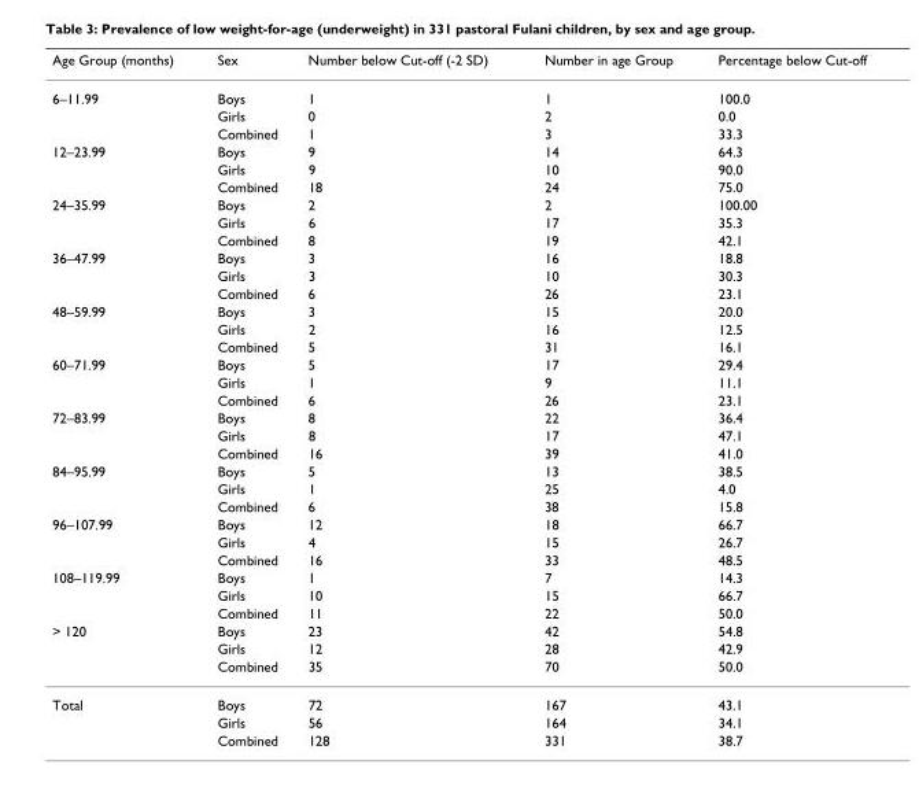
<table><thead><tr><td>Age Group (months)</td><td>Sex</td><td>Number below Cut-off (-2 SD)</td><td>Number in age Group</td><td>Percentage below Cut-off</td></tr></thead><tbody><tr><td rowspan="3">6–11.99</td><td>Boys</td><td>1</td><td>1</td><td>100.0</td></tr><tr><td>Girls</td><td>0</td><td>2</td><td>0.0</td></tr><tr><td>Combined</td><td>1</td><td>3</td><td>33.3</td></tr><tr><td rowspan="3">12–23.99</td><td>Boys</td><td>9</td><td>14</td><td>64.3</td></tr><tr><td>Girls</td><td>9</td><td>10</td><td>90.0</td></tr><tr><td>Combined</td><td>18</td><td>24</td><td>75.0</td></tr><tr><td rowspan="3">24–35.99</td><td>Boys</td><td>2</td><td>2</td><td>100.00</td></tr><tr><td>Girls</td><td>6</td><td>17</td><td>35.3</td></tr><tr><td>Combined</td><td>8</td><td>19</td><td>42.1</td></tr><tr><td rowspan="3">36–47.99</td><td>Boys</td><td>3</td><td>16</td><td>18.8</td></tr><tr><td>Girls</td><td>3</td><td>10</td><td>30.3</td></tr><tr><td>Combined</td><td>6</td><td>26</td><td>23.1</td></tr><tr><td rowspan="3">48–59.99</td><td>Boys</td><td>3</td><td>15</td><td>20.0</td></tr><tr><td>Girls</td><td>2</td><td>16</td><td>12.5</td></tr><tr><td>Combined</td><td>5</td><td>31</td><td>16.1</td></tr><tr><td rowspan="3">60–71.99</td><td>Boys</td><td>5</td><td>17</td><td>29.4</td></tr><tr><td>Girls</td><td>1</td><td>9</td><td>11.1</td></tr><tr><td>Combined</td><td>6</td><td>26</td><td>23.1</td></tr><tr><td rowspan="3">72–83.99</td><td>Boys</td><td>8</td><td>22</td><td>36.4</td></tr><tr><td>Girls</td><td>8</td><td>17</td><td>47.1</td></tr><tr><td>Combined</td><td>16</td><td>39</td><td>41.0</td></tr><tr><td rowspan="3">84–95.99</td><td>Boys</td><td>5</td><td>13</td><td>38.5</td></tr><tr><td>Girls</td><td>1</td><td>25</td><td>4.0</td></tr><tr><td>Combined</td><td>6</td><td>38</td><td>15.8</td></tr><tr><td rowspan="3">96–107.99</td><td>Boys</td><td>12</td><td>18</td><td>66.7</td></tr><tr><td>Girls</td><td>4</td><td>15</td><td>26.7</td></tr><tr><td>Combined</td><td>16</td><td>33</td><td>48.5</td></tr><tr><td rowspan="3">108–119.99</td><td>Boys</td><td>1</td><td>7</td><td>14.3</td></tr><tr><td>Girls</td><td>10</td><td>15</td><td>66.7</td></tr><tr><td>Combined</td><td>11</td><td>22</td><td>50.0</td></tr><tr><td rowspan="3">&gt; 120</td><td>Boys</td><td>23</td><td>42</td><td>54.8</td></tr><tr><td>Girls</td><td>12</td><td>28</td><td>42.9</td></tr><tr><td>Combined</td><td>35</td><td>70</td><td>50.0</td></tr><tr><td rowspan="3">Total</td><td>Boys</td><td>72</td><td>167</td><td>43.1</td></tr><tr><td>Girls</td><td>56</td><td>164</td><td>34.1</td></tr><tr><td>Combined</td><td>128</td><td>331</td><td>38.7</td></tr></tbody></table>